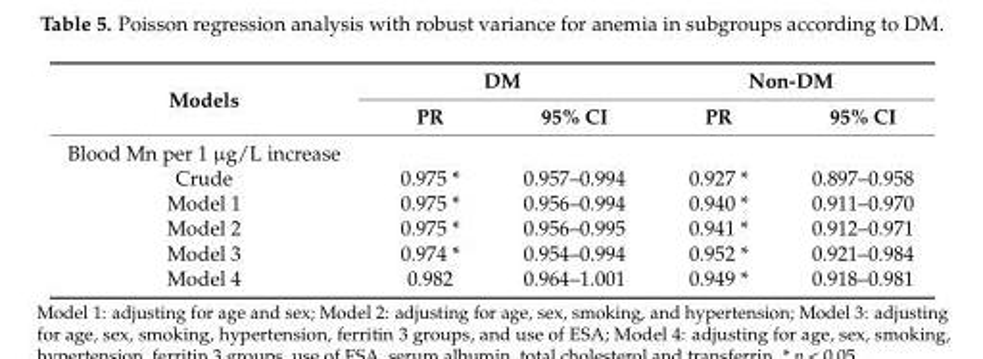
<table><thead><tr><td rowspan="2">Models</td><td colspan="2">DM</td><td colspan="2">Non-DM</td></tr><tr><td>PR</td><td>95% CI</td><td>PR</td><td>95% CI</td></tr></thead><tbody><tr><td colspan="5">Blood Mn per 1 µg/L increase</td></tr><tr><td>Crude</td><td>0.975 *</td><td>0.957–0.994</td><td>0.927 *</td><td>0.897–0.958</td></tr><tr><td>Model 1</td><td>0.975 *</td><td>0.956–0.994</td><td>0.940 *</td><td>0.911–0.970</td></tr><tr><td>Model 2</td><td>0.975 *</td><td>0.956–0.995</td><td>0.941 *</td><td>0.912–0.971</td></tr><tr><td>Model 3</td><td>0.974 *</td><td>0.954–0.994</td><td>0.952 *</td><td>0.921–0.984</td></tr><tr><td>Model 4</td><td>0.982</td><td>0.964–1.001</td><td>0.949 *</td><td>0.918–0.981</td></tr></tbody></table>